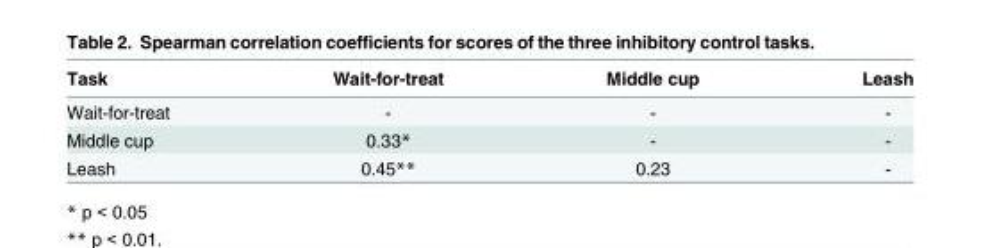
<table><thead><tr><td>Task</td><td>Wait-for-treat</td><td>Middle cup</td><td>Leash</td></tr></thead><tbody><tr><td>Wait-for-treat</td><td>-</td><td>-</td><td>-</td></tr><tr><td>Middle cup</td><td>0.33*</td><td>-</td><td>-</td></tr><tr><td>Leash</td><td>0.45**</td><td>0.23</td><td>-</td></tr></tbody></table>